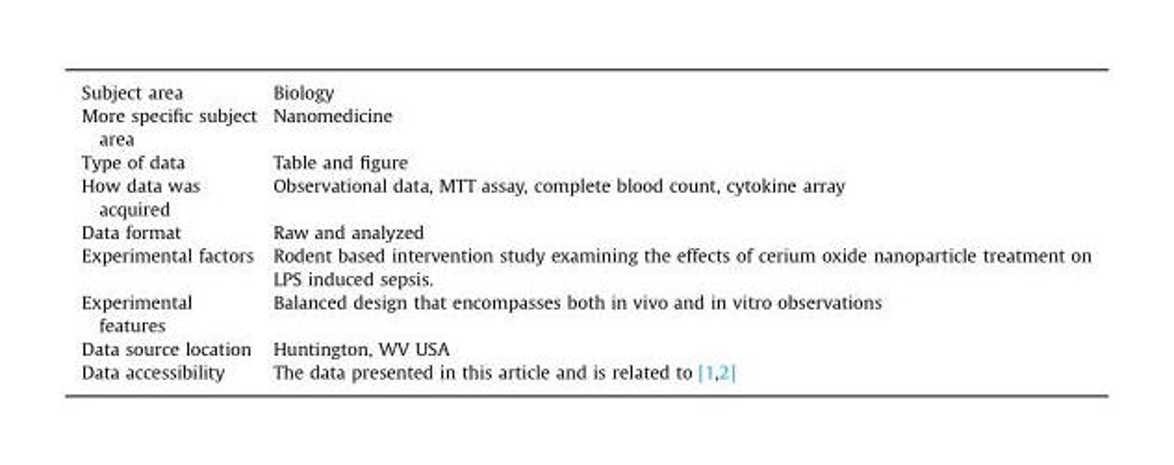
<table><tbody><tr><td>Subject area</td><td>Biology</td></tr><tr><td>More specific subject area</td><td>Nanomedicine</td></tr><tr><td>Type of data</td><td>Table and figure</td></tr><tr><td>How data was acquired</td><td>Observational data, MTT assay, complete blood count, cytokine array</td></tr><tr><td>Data format</td><td>Raw and analyzed</td></tr><tr><td>Experimental factors</td><td>Rodent based intervention study examining the effects of cerium oxide nanoparticle treatment on LPS induced sepsis.</td></tr><tr><td>Experimental features</td><td>Balanced design that encompasses both in vivo and in vitro observations</td></tr><tr><td>Data source location</td><td>Huntington, WV USA</td></tr><tr><td>Data accessibility</td><td>The data presented in this article and is related to [1,2]</td></tr></tbody></table>